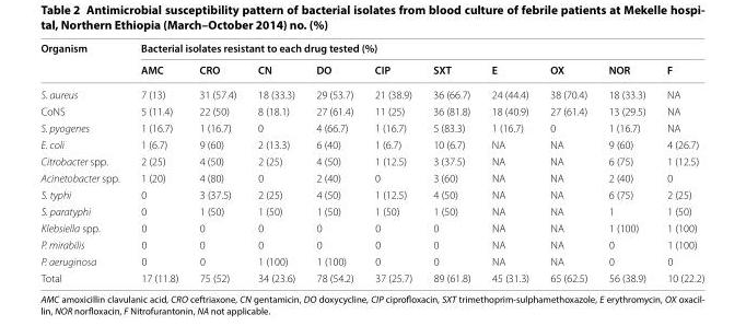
<table><thead><tr><td rowspan="2">Organism</td><td colspan="10">Bacterial isolates resistant to each drug tested (%)</td></tr><tr><td>AMC</td><td>CRO</td><td>CN</td><td>DO</td><td>CIP</td><td>SXT</td><td>E</td><td>OX</td><td>NOR</td><td>F</td></tr></thead><tbody><tr><td>S. aureus</td><td>7 (13)</td><td>31 (57.4)</td><td>18 (33.3)</td><td>29 (53.7)</td><td>21 (38.9)</td><td>36 (66.7)</td><td>24 (44.4)</td><td>38 (70.4)</td><td>18 (33.3)</td><td>NA</td></tr><tr><td>CoNS</td><td>5 (11.4)</td><td>22 (50)</td><td>8 (18.1)</td><td>27 (61.4)</td><td>11 (25)</td><td>36 (81.8)</td><td>18 (40.9)</td><td>27 (61.4)</td><td>13 (29.5)</td><td>NA</td></tr><tr><td>S. pyogenes</td><td>1 (16.7)</td><td>1 (16.7)</td><td>0</td><td>4 (66.7)</td><td>1 (16.7)</td><td>5 (83.3)</td><td>1 (16.7)</td><td>0</td><td>1 (16.7)</td><td>NA</td></tr><tr><td>E. coli</td><td>1 (6.7)</td><td>9 (60)</td><td>2 (13.3)</td><td>6 (40)</td><td>1 (6.7)</td><td>10 (6.7)</td><td>NA</td><td>NA</td><td>9 (60)</td><td>4 (26.7)</td></tr><tr><td>Citrobacter spp.</td><td>2 (25)</td><td>4 (50)</td><td>2 (25)</td><td>4 (50)</td><td>1 (12.5)</td><td>3 (37.5)</td><td>NA</td><td>NA</td><td>6 (75)</td><td>1 (12.5)</td></tr><tr><td>Acinetobacter spp.</td><td>1 (20)</td><td>4 (80)</td><td>0</td><td>2 (40)</td><td>0</td><td>3 (60)</td><td>NA</td><td>NA</td><td>2 (40)</td><td>0</td></tr><tr><td>S. typhi</td><td>0</td><td>3 (37.5)</td><td>2 (25)</td><td>4 (50)</td><td>1 (12.5)</td><td>4 (50)</td><td>NA</td><td>NA</td><td>6 (75)</td><td>2 (25)</td></tr><tr><td>S. paratyphi</td><td>0</td><td>1 (50)</td><td>1 (50)</td><td>1 (50)</td><td>1 (50)</td><td>1 (50)</td><td>NA</td><td>NA</td><td>1</td><td>1 (50)</td></tr><tr><td>Klebsiella spp.</td><td>0</td><td>0</td><td>0</td><td>0</td><td>0</td><td>0</td><td>NA</td><td>NA</td><td>1 (100)</td><td>1 (100)</td></tr><tr><td>P. mirabilis</td><td>0</td><td>0</td><td>0</td><td>0</td><td>0</td><td>0</td><td>NA</td><td>NA</td><td>0</td><td>1 (100)</td></tr><tr><td>P. aeruginosa</td><td>0</td><td>0</td><td>1 (100)</td><td>1 (100)</td><td>0</td><td>0</td><td>NA</td><td>NA</td><td>0</td><td>0</td></tr><tr><td>Total</td><td>17 (11.8)</td><td>75 (52)</td><td>34 (23.6)</td><td>78 (54.2)</td><td>37 (25.7)</td><td>89 (61.8)</td><td>45 (31.3)</td><td>65 (62.5)</td><td>56 (38.9)</td><td>10 (22.2)</td></tr></tbody></table>